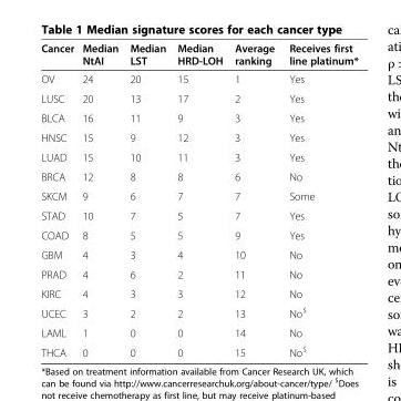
<table><thead><tr><td>Cancer</td><td>Median NtAI</td><td>Median LST</td><td>Median HRD-LOH</td><td>Average ranking</td><td>Receives first line platinum*</td></tr></thead><tbody><tr><td>OV</td><td>24</td><td>20</td><td>15</td><td>1</td><td>Yes</td></tr><tr><td>LUSC</td><td>20</td><td>13</td><td>17</td><td>2</td><td>Yes</td></tr><tr><td>BLCA</td><td>16</td><td>11</td><td>9</td><td>3</td><td>Yes</td></tr><tr><td>HNSC</td><td>15</td><td>9</td><td>12</td><td>3</td><td>Yes</td></tr><tr><td>LUAD</td><td>15</td><td>10</td><td>11</td><td>3</td><td>Yes</td></tr><tr><td>BRCA</td><td>12</td><td>8</td><td>8</td><td>6</td><td>No</td></tr><tr><td>SKCM</td><td>9</td><td>6</td><td>7</td><td>7</td><td>Some</td></tr><tr><td>STAD</td><td>10</td><td>7</td><td>5</td><td>7</td><td>Yes</td></tr><tr><td>COAD</td><td>8</td><td>5</td><td>5</td><td>9</td><td>Yes</td></tr><tr><td>GBM</td><td>4</td><td>3</td><td>4</td><td>10</td><td>No</td></tr><tr><td>PRAD</td><td>4</td><td>6</td><td>2</td><td>11</td><td>No</td></tr><tr><td>KIRC</td><td>4</td><td>3</td><td>3</td><td>12</td><td>No</td></tr><tr><td>UCEC</td><td>3</td><td>2</td><td>2</td><td>13</td><td>No<sup>$</sup></td></tr><tr><td>LAML</td><td>1</td><td>0</td><td>0</td><td>14</td><td>No</td></tr><tr><td>THCA</td><td>0</td><td>0</td><td>0</td><td>15</td><td>No<sup>$</sup></td></tr></tbody></table>